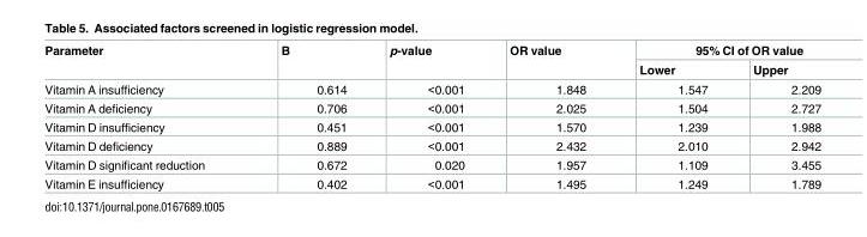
<table><thead><tr><td rowspan="2">Parameter</td><td rowspan="2">B</td><td rowspan="2">p-value</td><td rowspan="2">OR value</td><td colspan="2">95% CI of OR value</td></tr><tr><td>Lower</td><td>Upper</td></tr></thead><tbody><tr><td>Vitamin A insufficiency</td><td>0.614</td><td>&lt;0.001</td><td>1.848</td><td>1.547</td><td>2.209</td></tr><tr><td>Vitamin A deficiency</td><td>0.706</td><td>&lt;0.001</td><td>2.025</td><td>1.504</td><td>2.727</td></tr><tr><td>Vitamin D insufficiency</td><td>0.451</td><td>&lt;0.001</td><td>1.570</td><td>1.239</td><td>1.988</td></tr><tr><td>Vitamin D deficiency</td><td>0.889</td><td>&lt;0.001</td><td>2.432</td><td>2.010</td><td>2.942</td></tr><tr><td>Vitamin D significant reduction</td><td>0.672</td><td>0.020</td><td>1.957</td><td>1.109</td><td>3.455</td></tr><tr><td>Vitamin E insufficiency</td><td>0.402</td><td>&lt;0.001</td><td>1.495</td><td>1.249</td><td>1.789</td></tr></tbody></table>